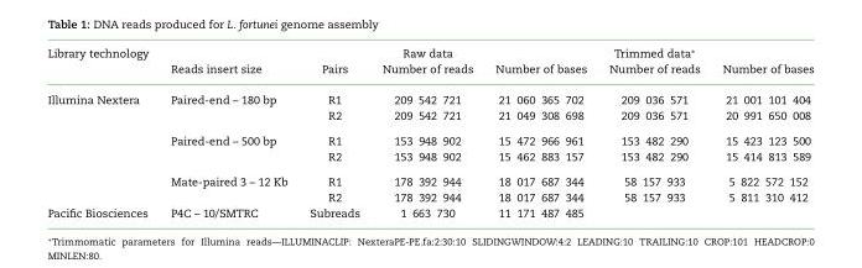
<table><thead><tr><td rowspan="2">Library technology</td><td rowspan="2">Reads insert size</td><td rowspan="2">Pairs</td><td rowspan="2">Raw data Number of reads</td><td rowspan="2">Number of bases</td><td rowspan="2">Trimmed data∗ Number of reads</td><td rowspan="2">Number of bases</td></tr><tr></tr></thead><tbody><tr><td rowspan="6">Illumina Nextera</td><td>Paired-end – 180 bp</td><td>R1</td><td>209 542 721</td><td>21 060 365 702</td><td>209 036 571</td><td>21 001 101 404</td></tr><tr><td></td><td>R2</td><td>209 542 721</td><td>21 049 308 698</td><td>209 036 571</td><td>20 991 650 008</td></tr><tr><td>Paired-end – 500 bp</td><td>R1</td><td>153 948 902</td><td>15 472 966 961</td><td>153 482 290</td><td>15 423 123 500</td></tr><tr><td></td><td>R2</td><td>153 948 902</td><td>15 462 883 157</td><td>153 482 290</td><td>15 414 813 589</td></tr><tr><td>Mate-paired 3 – 12 Kb</td><td>R1</td><td>178 392 944</td><td>18 017 687 344</td><td>58 157 933</td><td>5 822 572 152</td></tr><tr><td></td><td>R2</td><td>178 392 944</td><td>18 017 687 344</td><td>58 157 933</td><td>5 811 310 412</td></tr><tr><td>Pacific Biosciences</td><td>P4C – 10/SMTRC</td><td>Subreads</td><td>1 663 730</td><td>11 171 487 485</td><td></td><td></td></tr></tbody></table>